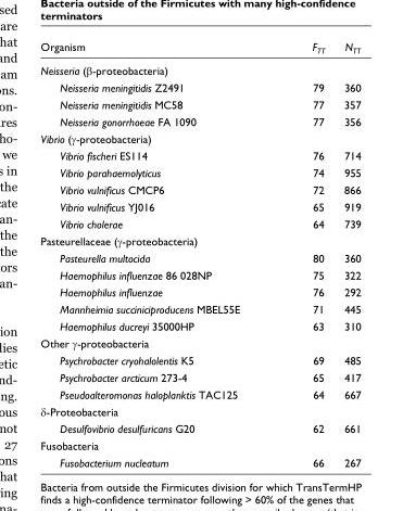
<table><thead><tr><td>Organism</td><td>FTT</td><td>NTT</td></tr></thead><tbody><tr><td colspan="3">Neisseria (β-proteobacteria)</td></tr><tr><td>Neisseria meningitidis Z2491</td><td>79</td><td>360</td></tr><tr><td>Neisseria meningitidis MC58</td><td>77</td><td>357</td></tr><tr><td>Neisseria gonorrhoeae FA 1090</td><td>77</td><td>356</td></tr><tr><td colspan="3">Vibrio (γ-proteobacteria)</td></tr><tr><td>Vibrio fischeri ES114</td><td>76</td><td>714</td></tr><tr><td>Vibrio parahaemolyticus</td><td>74</td><td>955</td></tr><tr><td>Vibrio vulnificus CMCP6</td><td>72</td><td>866</td></tr><tr><td>Vibrio vulnificus YJ016</td><td>65</td><td>919</td></tr><tr><td>Vibrio cholerae</td><td>64</td><td>739</td></tr><tr><td colspan="3">Pasteurellaceae (γ-proteobacteria)</td></tr><tr><td>Pasteurella multocida</td><td>80</td><td>360</td></tr><tr><td>Haemophilus influenzae 86 028NP</td><td>75</td><td>322</td></tr><tr><td>Haemophilus influenzae</td><td>76</td><td>292</td></tr><tr><td>Mannheimia succiniciproducens MBEL55E</td><td>71</td><td>445</td></tr><tr><td>Haemophilus ducreyi 35000HP</td><td>63</td><td>310</td></tr><tr><td colspan="3">Other γ-proteobacteria</td></tr><tr><td>Psychrobacter cryohalolentis K5</td><td>69</td><td>485</td></tr><tr><td>Psychrobacter arcticum 273-4</td><td>65</td><td>417</td></tr><tr><td>Pseudoalteromonas haloplanktis TAC125</td><td>64</td><td>667</td></tr><tr><td colspan="3">δ-Proteobacteria</td></tr><tr><td>Desulfovibrio desulfuricans G20</td><td>62</td><td>661</td></tr><tr><td colspan="3">Fusobacteria</td></tr><tr><td>Fusobacterium nucleatum</td><td>66</td><td>267</td></tr></tbody></table>